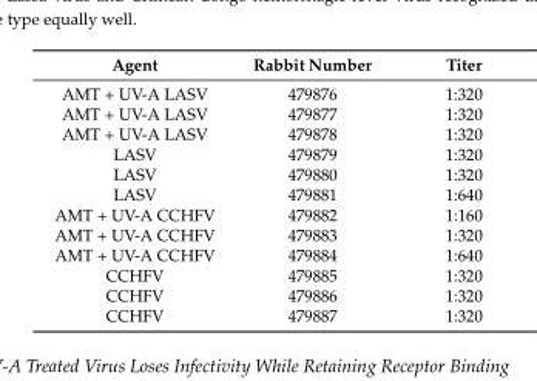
<table><thead><tr><td>Agent</td><td>Rabbit Number</td><td>Titer</td></tr></thead><tbody><tr><td>AMT + UV-A LASV</td><td>479876</td><td>1:320</td></tr><tr><td>AMT + UV-A LASV</td><td>479877</td><td>1:320</td></tr><tr><td>AMT + UV-A LASV</td><td>479878</td><td>1:320</td></tr><tr><td>LASV</td><td>479879</td><td>1:320</td></tr><tr><td>LASV</td><td>479880</td><td>1:320</td></tr><tr><td>LASV</td><td>479881</td><td>1:640</td></tr><tr><td>AMT + UV-A CCHFV</td><td>479882</td><td>1:160</td></tr><tr><td>AMT + UV-A CCHFV</td><td>479883</td><td>1:320</td></tr><tr><td>AMT + UV-A CCHFV</td><td>479884</td><td>1:640</td></tr><tr><td>CCHFV</td><td>479885</td><td>1:320</td></tr><tr><td>CCHFV</td><td>479886</td><td>1:320</td></tr><tr><td>CCHFV</td><td>479887</td><td>1:320</td></tr></tbody></table>